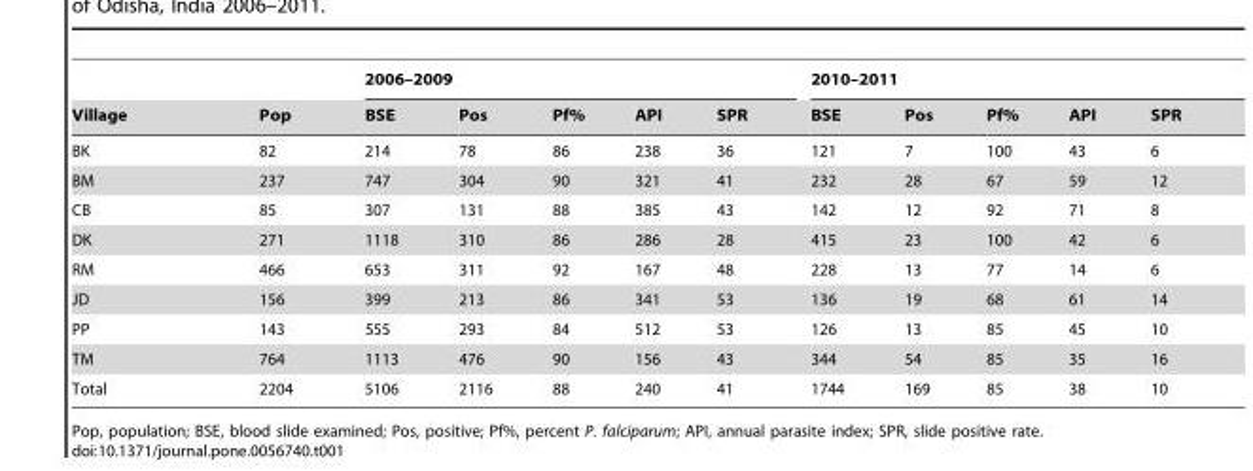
<table><thead><tr><td rowspan="2">Village</td><td rowspan="2">Pop</td><td colspan="5">2006–2009</td><td colspan="5">2010–2011</td></tr><tr><td>BSE</td><td>Pos</td><td>Pf%</td><td>API</td><td>SPR</td><td>BSE</td><td>Pos</td><td>Pf%</td><td>API</td><td>SPR</td></tr></thead><tbody><tr><td>BK</td><td>82</td><td>214</td><td>78</td><td>86</td><td>238</td><td>36</td><td>121</td><td>7</td><td>100</td><td>43</td><td>6</td></tr><tr><td>BM</td><td>237</td><td>747</td><td>304</td><td>90</td><td>321</td><td>41</td><td>232</td><td>28</td><td>67</td><td>59</td><td>12</td></tr><tr><td>CB</td><td>85</td><td>307</td><td>131</td><td>88</td><td>385</td><td>43</td><td>142</td><td>12</td><td>92</td><td>71</td><td>8</td></tr><tr><td>DK</td><td>271</td><td>1118</td><td>310</td><td>86</td><td>286</td><td>28</td><td>415</td><td>23</td><td>100</td><td>42</td><td>6</td></tr><tr><td>RM</td><td>466</td><td>653</td><td>311</td><td>92</td><td>167</td><td>48</td><td>228</td><td>13</td><td>77</td><td>14</td><td>6</td></tr><tr><td>JD</td><td>156</td><td>399</td><td>213</td><td>86</td><td>341</td><td>53</td><td>136</td><td>19</td><td>68</td><td>61</td><td>14</td></tr><tr><td>PP</td><td>143</td><td>555</td><td>293</td><td>84</td><td>512</td><td>53</td><td>126</td><td>13</td><td>85</td><td>45</td><td>10</td></tr><tr><td>TM</td><td>764</td><td>1113</td><td>476</td><td>90</td><td>156</td><td>43</td><td>344</td><td>54</td><td>85</td><td>35</td><td>16</td></tr><tr><td>Total</td><td>2204</td><td>5106</td><td>2116</td><td>88</td><td>240</td><td>41</td><td>1744</td><td>169</td><td>85</td><td>38</td><td>10</td></tr></tbody></table>